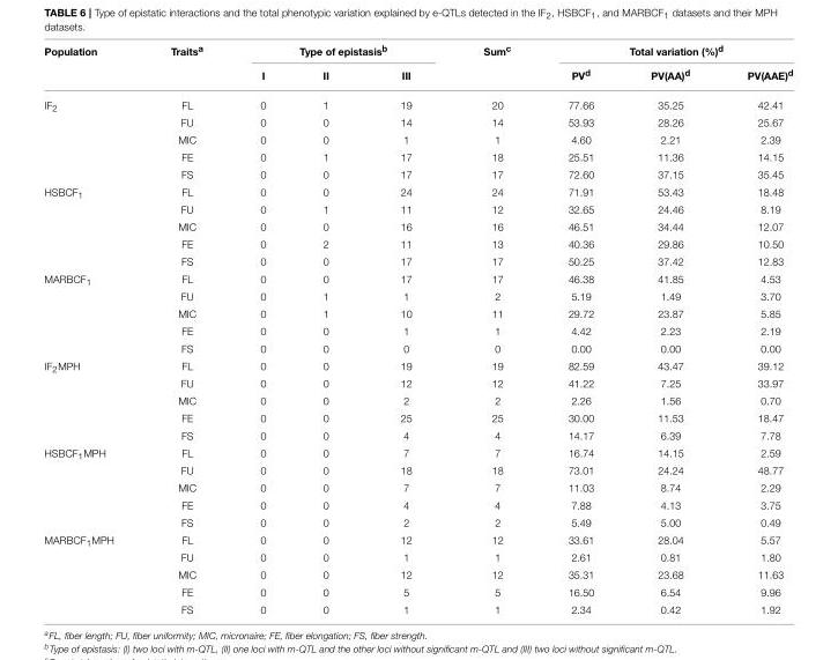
<table><thead><tr><td rowspan="2">Population</td><td rowspan="2">Traits<sup>a</sup></td><td colspan="3">Type of epistasis<sup>b</sup></td><td rowspan="2">Sum<sup>c</sup></td><td colspan="3">Total variation (%)<sup>d</sup></td></tr><tr><td>I</td><td>II</td><td>III</td><td>PV<sup>d</sup></td><td>PV(AA)<sup>d</sup></td><td>PV(AAE)<sup>d</sup></td></tr></thead><tbody><tr><td rowspan="5">IF<sub>2</sub></td><td>FL</td><td>0</td><td>1</td><td>19</td><td>20</td><td>77.66</td><td>35.25</td><td>42.41</td></tr><tr><td>FU</td><td>0</td><td>0</td><td>14</td><td>14</td><td>53.93</td><td>28.26</td><td>25.67</td></tr><tr><td>MIC</td><td>0</td><td>0</td><td>1</td><td>1</td><td>4.60</td><td>2.21</td><td>2.39</td></tr><tr><td>FE</td><td>0</td><td>1</td><td>17</td><td>18</td><td>25.51</td><td>11.36</td><td>14.15</td></tr><tr><td>FS</td><td>0</td><td>0</td><td>17</td><td>17</td><td>72.60</td><td>37.15</td><td>35.45</td></tr><tr><td rowspan="5">HSBCF<sub>1</sub></td><td>FL</td><td>0</td><td>0</td><td>24</td><td>24</td><td>71.91</td><td>53.43</td><td>18.48</td></tr><tr><td>FU</td><td>0</td><td>1</td><td>11</td><td>12</td><td>32.65</td><td>24.46</td><td>8.19</td></tr><tr><td>MIC</td><td>0</td><td>0</td><td>16</td><td>16</td><td>46.51</td><td>34.44</td><td>12.07</td></tr><tr><td>FE</td><td>0</td><td>2</td><td>11</td><td>13</td><td>40.36</td><td>29.86</td><td>10.50</td></tr><tr><td>FS</td><td>0</td><td>0</td><td>17</td><td>17</td><td>50.25</td><td>37.42</td><td>12.83</td></tr><tr><td rowspan="5">MARBCF<sub>1</sub></td><td>FL</td><td>0</td><td>0</td><td>17</td><td>17</td><td>46.38</td><td>41.85</td><td>4.53</td></tr><tr><td>FU</td><td>0</td><td>1</td><td>1</td><td>2</td><td>5.19</td><td>1.49</td><td>3.70</td></tr><tr><td>MIC</td><td>0</td><td>1</td><td>10</td><td>11</td><td>29.72</td><td>23.87</td><td>5.85</td></tr><tr><td>FE</td><td>0</td><td>0</td><td>1</td><td>1</td><td>4.42</td><td>2.23</td><td>2.19</td></tr><tr><td>FS</td><td>0</td><td>0</td><td>0</td><td>0</td><td>0.00</td><td>0.00</td><td>0.00</td></tr><tr><td rowspan="5">IF<sub>2</sub>MPH</td><td>FL</td><td>0</td><td>0</td><td>19</td><td>19</td><td>82.59</td><td>43.47</td><td>39.12</td></tr><tr><td>FU</td><td>0</td><td>0</td><td>12</td><td>12</td><td>41.22</td><td>7.25</td><td>33.97</td></tr><tr><td>MIC</td><td>0</td><td>0</td><td>2</td><td>2</td><td>2.26</td><td>1.56</td><td>0.70</td></tr><tr><td>FE</td><td>0</td><td>0</td><td>25</td><td>25</td><td>30.00</td><td>11.53</td><td>18.47</td></tr><tr><td>FS</td><td>0</td><td>0</td><td>4</td><td>4</td><td>14.17</td><td>6.39</td><td>7.78</td></tr><tr><td rowspan="5">HSBCF<sub>1</sub>MPH</td><td>FL</td><td>0</td><td>0</td><td>7</td><td>7</td><td>16.74</td><td>14.15</td><td>2.59</td></tr><tr><td>FU</td><td>0</td><td>0</td><td>18</td><td>18</td><td>73.01</td><td>24.24</td><td>48.77</td></tr><tr><td>MIC</td><td>0</td><td>0</td><td>7</td><td>7</td><td>11.03</td><td>8.74</td><td>2.29</td></tr><tr><td>FE</td><td>0</td><td>0</td><td>4</td><td>4</td><td>7.88</td><td>4.13</td><td>3.75</td></tr><tr><td>FS</td><td>0</td><td>0</td><td>2</td><td>2</td><td>5.49</td><td>5.00</td><td>0.49</td></tr><tr><td rowspan="5">MARBCF<sub>1</sub>MPH</td><td>FL</td><td>0</td><td>0</td><td>12</td><td>12</td><td>33.61</td><td>28.04</td><td>5.57</td></tr><tr><td>FU</td><td>0</td><td>0</td><td>1</td><td>1</td><td>2.61</td><td>0.81</td><td>1.80</td></tr><tr><td>MIC</td><td>0</td><td>0</td><td>12</td><td>12</td><td>35.31</td><td>23.68</td><td>11.63</td></tr><tr><td>FE</td><td>0</td><td>0</td><td>5</td><td>5</td><td>16.50</td><td>6.54</td><td>9.96</td></tr><tr><td>FS</td><td>0</td><td>0</td><td>1</td><td>1</td><td>2.34</td><td>0.42</td><td>1.92</td></tr></tbody></table>